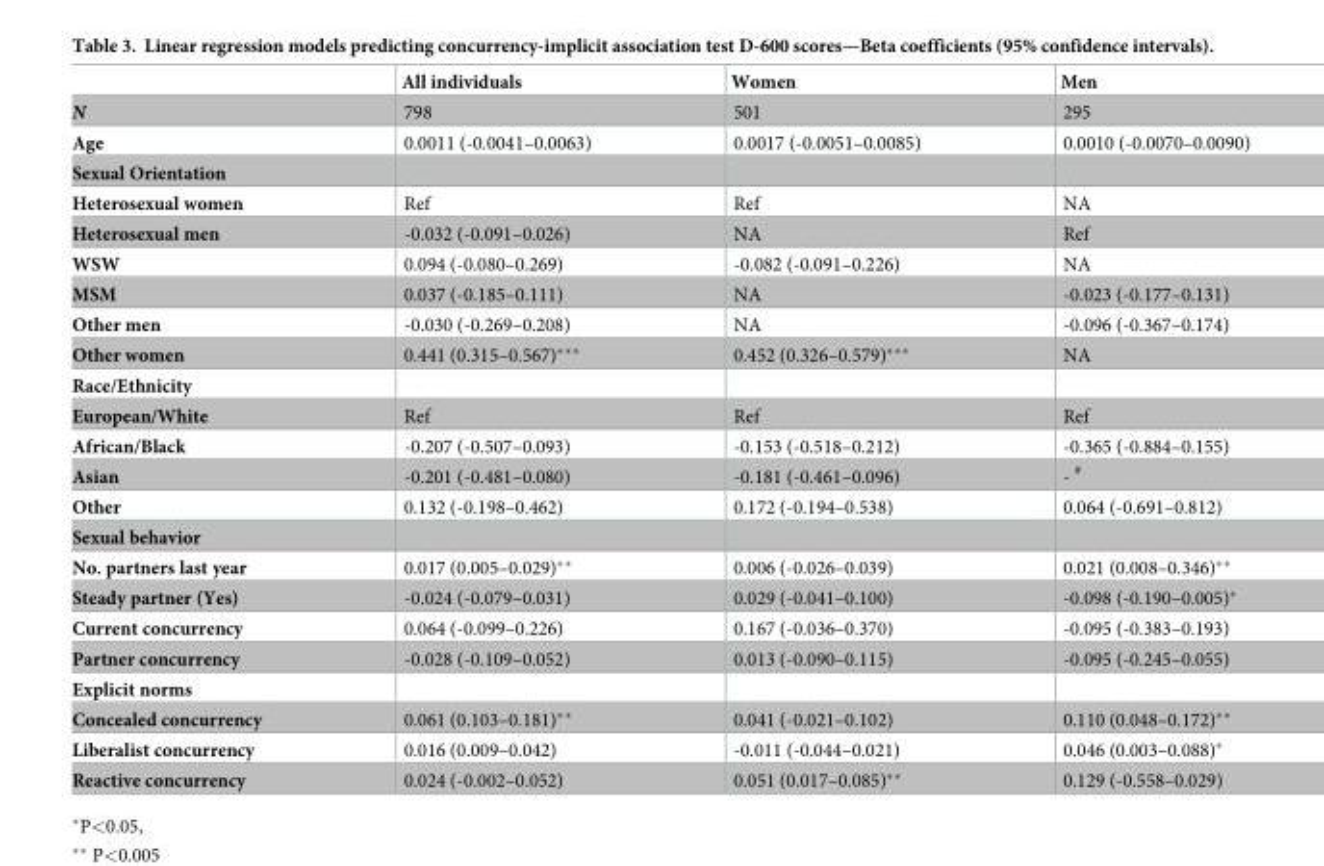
<table><thead><tr><td></td><td>All individuals</td><td>Women</td><td>Men</td></tr></thead><tbody><tr><td>N</td><td>798</td><td>501</td><td>295</td></tr><tr><td>Age</td><td>0.0011 (-0.0041–0.0063)</td><td>0.0017 (-0.0051–0.0085)</td><td>0.0010 (-0.0070–0.0090)</td></tr><tr><td colspan="4">Sexual Orientation</td></tr><tr><td>Heterosexual women</td><td>Ref</td><td>Ref</td><td>NA</td></tr><tr><td>Heterosexual men</td><td>-0.032 (-0.091–0.026)</td><td>NA</td><td>Ref</td></tr><tr><td>WSW</td><td>0.094 (-0.080–0.269)</td><td>-0.082 (-0.091–0.226)</td><td>NA</td></tr><tr><td>MSM</td><td>0.037 (-0.185–0.111)</td><td>NA</td><td>-0.023 (-0.177–0.131)</td></tr><tr><td>Other men</td><td>-0.030 (-0.269–0.208)</td><td>NA</td><td>-0.096 (-0.367–0.174)</td></tr><tr><td>Other women</td><td>0.441 (0.315–0.567)***</td><td>0.452 (0.326–0.579)***</td><td>NA</td></tr><tr><td colspan="4">Race/Ethnicity</td></tr><tr><td>European/White</td><td>Ref</td><td>Ref</td><td>Ref</td></tr><tr><td>African/Black</td><td>-0.207 (-0.507–0.093)</td><td>-0.153 (-0.518–0.212)</td><td>-0.365 (-0.884–0.155)</td></tr><tr><td>Asian</td><td>-0.201 (-0.481–0.080)</td><td>-0.181 (-0.461–0.096)</td><td>- <sup>#</sup></td></tr><tr><td>Other</td><td>0.132 (-0.198–0.462)</td><td>0.172 (-0.194–0.538)</td><td>0.064 (-0.691–0.812)</td></tr><tr><td colspan="4">Sexual behavior</td></tr><tr><td>No. partners last year</td><td>0.017 (0.005–0.029)**</td><td>0.006 (-0.026–0.039)</td><td>0.021 (0.008–0.346)**</td></tr><tr><td>Steady partner (Yes)</td><td>-0.024 (-0.079–0.031)</td><td>0.029 (-0.041–0.100)</td><td>-0.098 (-0.190–0.005)*</td></tr><tr><td>Current concurrency</td><td>0.064 (-0.099–0.226)</td><td>0.167 (-0.036–0.370)</td><td>-0.095 (-0.383–0.193)</td></tr><tr><td>Partner concurrency</td><td>-0.028 (-0.109–0.052)</td><td>0.013 (-0.090–0.115)</td><td>-0.095 (-0.245–0.055)</td></tr><tr><td colspan="4">Explicit norms</td></tr><tr><td>Concealed concurrency</td><td>0.061 (0.103–0.181)**</td><td>0.041 (-0.021–0.102)</td><td>0.110 (0.048–0.172)**</td></tr><tr><td>Liberalist concurrency</td><td>0.016 (0.009–0.042)</td><td>-0.011 (-0.044–0.021)</td><td>0.046 (0.003–0.088)*</td></tr><tr><td>Reactive concurrency</td><td>0.024 (-0.002–0.052)</td><td>0.051 (0.017–0.085)**</td><td>0.129 (-0.558–0.029)</td></tr></tbody></table>